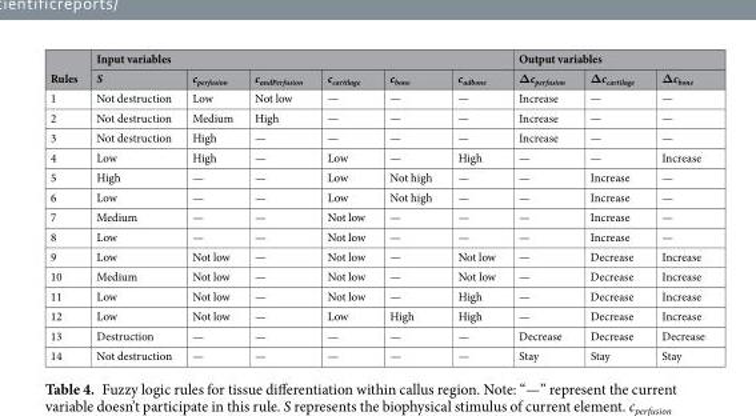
<table><thead><tr><td rowspan="2">Rules</td><td colspan="6">Input variables</td><td colspan="3">Output variables</td></tr><tr><td>S</td><td>c<sub>perfusion</sub></td><td>c<sub>andPerfusion</sub></td><td>c<sub>cartilage</sub></td><td>c<sub>bone</sub></td><td>c<sub>adbone</sub></td><td>Δc<sub>perfusion</sub></td><td>Δc<sub>cartilage</sub></td><td>Δc<sub>bone</sub></td></tr></thead><tbody><tr><td>1</td><td>Not destruction</td><td>Low</td><td>Not low</td><td>—</td><td>—</td><td>—</td><td>Increase</td><td>—</td><td>—</td></tr><tr><td>2</td><td>Not destruction</td><td>Medium</td><td>High</td><td>—</td><td>—</td><td>—</td><td>Increase</td><td>—</td><td>—</td></tr><tr><td>3</td><td>Not destruction</td><td>High</td><td>—</td><td>—</td><td>—</td><td>—</td><td>Increase</td><td>—</td><td>—</td></tr><tr><td>4</td><td>Low</td><td>High</td><td>—</td><td>Low</td><td>—</td><td>High</td><td>—</td><td>—</td><td>Increase</td></tr><tr><td>5</td><td>High</td><td>—</td><td>—</td><td>Low</td><td>Not high</td><td>—</td><td>—</td><td>Increase</td><td>—</td></tr><tr><td>6</td><td>Low</td><td>—</td><td>—</td><td>Low</td><td>Not high</td><td>—</td><td>—</td><td>Increase</td><td>—</td></tr><tr><td>7</td><td>Medium</td><td>—</td><td>—</td><td>Not low</td><td>—</td><td>—</td><td>—</td><td>Increase</td><td>—</td></tr><tr><td>8</td><td>Low</td><td>—</td><td>—</td><td>Not low</td><td>—</td><td>—</td><td>—</td><td>Increase</td><td>—</td></tr><tr><td>9</td><td>Low</td><td>Not low</td><td>—</td><td>Not low</td><td>—</td><td>Not low</td><td>—</td><td>Decrease</td><td>Increase</td></tr><tr><td>10</td><td>Medium</td><td>Not low</td><td>—</td><td>Not low</td><td>—</td><td>Not low</td><td>—</td><td>Decrease</td><td>Increase</td></tr><tr><td>11</td><td>Low</td><td>Not low</td><td>—</td><td>Not low</td><td>—</td><td>High</td><td>—</td><td>Decrease</td><td>Increase</td></tr><tr><td>12</td><td>Low</td><td>Not low</td><td>—</td><td>Low</td><td>High</td><td>High</td><td>—</td><td>Decrease</td><td>Increase</td></tr><tr><td>13</td><td>Destruction</td><td>—</td><td>—</td><td>—</td><td>—</td><td>—</td><td>Decrease</td><td>Decrease</td><td>Decrease</td></tr><tr><td>14</td><td>Not destruction</td><td>—</td><td>—</td><td>—</td><td>—</td><td>—</td><td>Stay</td><td>Stay</td><td>Stay</td></tr></tbody></table>